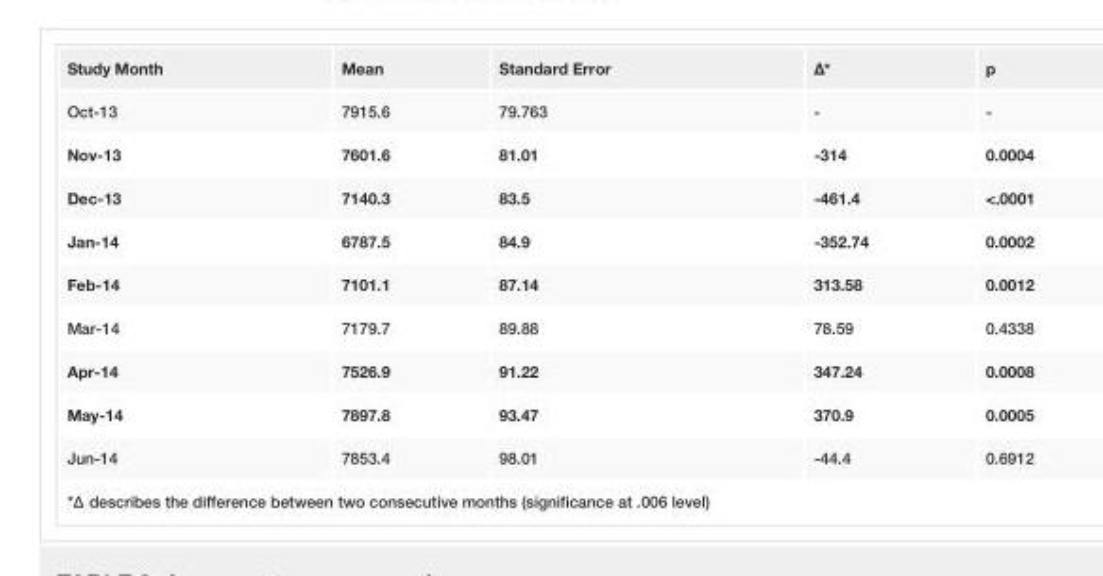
<table><tbody><tr><td>Study Month</td><td>Mean</td><td>Standard Error</td><td>Δ*</td><td>p</td></tr><tr><td>Oct-13</td><td>7915.6</td><td>79.763</td><td>-</td><td>-</td></tr><tr><td>Nov-13</td><td>7601.6</td><td>81.01</td><td>-314</td><td>0.0004</td></tr><tr><td>Dec-13</td><td>7140.3</td><td>83.5</td><td>-461.4</td><td>&lt;.0001</td></tr><tr><td>Jan-14</td><td>6787.5</td><td>84.9</td><td>-352.74</td><td>0.0002</td></tr><tr><td>Feb-14</td><td>7101.1</td><td>87.14</td><td>313.58</td><td>0.0012</td></tr><tr><td>Mar-14</td><td>7179.7</td><td>89.88</td><td>78.59</td><td>0.4338</td></tr><tr><td>Apr-14</td><td>7526.9</td><td>91.22</td><td>347.24</td><td>0.0008</td></tr><tr><td>May-14</td><td>7897.8</td><td>93.47</td><td>370.9</td><td>0.0005</td></tr><tr><td>Jun-14</td><td>7853.4</td><td>98.01</td><td>-44.4</td><td>0.6912</td></tr><tr><td colspan="5">*Δ describes the difference between two consecutive months (significance at .006 level)</td></tr></tbody></table>